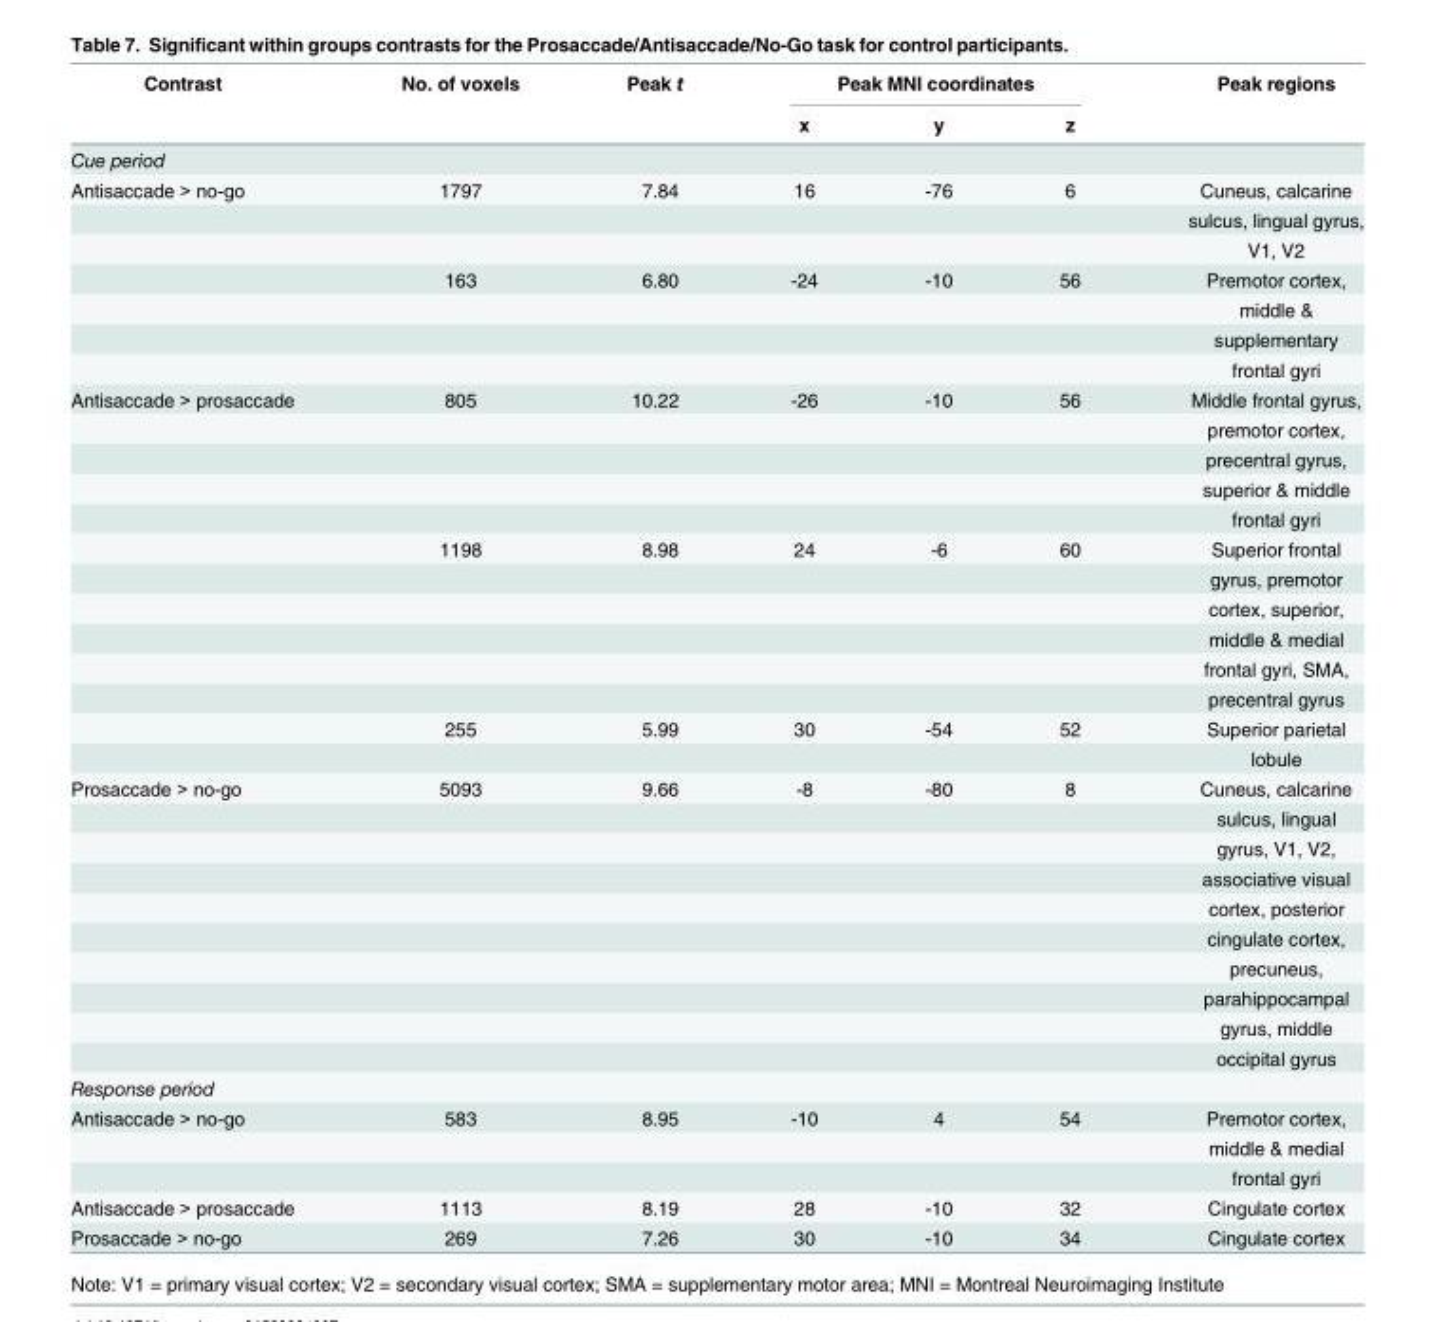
<table><thead><tr><td rowspan="2">Contrast</td><td rowspan="2">No. of voxels</td><td rowspan="2">Peak t</td><td colspan="3">Peak MNI coordinates</td><td rowspan="2">Peak regions</td></tr><tr><td>x</td><td>y</td><td>z</td></tr></thead><tbody><tr><td colspan="7">Cue period</td></tr><tr><td rowspan="7">Antisaccade &gt; no-go</td><td>1797</td><td>7.84</td><td>16</td><td>-76</td><td>6</td><td>Cuneus, calcarine</td></tr><tr><td></td><td></td><td></td><td></td><td></td><td>sulcus, lingual gyrus,</td></tr><tr><td></td><td></td><td></td><td></td><td></td><td>V1, V2</td></tr><tr><td>163</td><td>6.80</td><td>-24</td><td>-10</td><td>56</td><td>Premotor cortex,</td></tr><tr><td></td><td></td><td></td><td></td><td></td><td>middle &amp;</td></tr><tr><td></td><td></td><td></td><td></td><td></td><td>supplementary</td></tr><tr><td></td><td></td><td></td><td></td><td></td><td>frontal gyri</td></tr><tr><td rowspan="13">Antisaccade &gt; prosaccade</td><td>805</td><td>10.22</td><td>-26</td><td>-10</td><td>56</td><td>Middle frontal gyrus,</td></tr><tr><td></td><td></td><td></td><td></td><td></td><td>premotor cortex,</td></tr><tr><td></td><td></td><td></td><td></td><td></td><td>precentral gyrus,</td></tr><tr><td></td><td></td><td></td><td></td><td></td><td>superior &amp; middle</td></tr><tr><td></td><td></td><td></td><td></td><td></td><td>frontal gyri</td></tr><tr><td>1198</td><td>8.98</td><td>24</td><td>-6</td><td>60</td><td>Superior frontal</td></tr><tr><td></td><td></td><td></td><td></td><td></td><td>gyrus, premotor</td></tr><tr><td></td><td></td><td></td><td></td><td></td><td>cortex, superior,</td></tr><tr><td></td><td></td><td></td><td></td><td></td><td>middle &amp; medial</td></tr><tr><td></td><td></td><td></td><td></td><td></td><td>frontal gyri, SMA,</td></tr><tr><td></td><td></td><td></td><td></td><td></td><td>precentral gyrus</td></tr><tr><td>255</td><td>5.99</td><td>30</td><td>-54</td><td>52</td><td>Superior parietal</td></tr><tr><td></td><td></td><td></td><td></td><td></td><td>lobule</td></tr><tr><td rowspan="10">Prosaccade &gt; no-go</td><td>5093</td><td>9.66</td><td>-8</td><td>-80</td><td>8</td><td>Cuneus, calcarine</td></tr><tr><td></td><td></td><td></td><td></td><td></td><td>sulcus, lingual</td></tr><tr><td></td><td></td><td></td><td></td><td></td><td>gyrus, V1, V2,</td></tr><tr><td></td><td></td><td></td><td></td><td></td><td>associative visual</td></tr><tr><td></td><td></td><td></td><td></td><td></td><td>cortex, posterior</td></tr><tr><td></td><td></td><td></td><td></td><td></td><td>cingulate cortex,</td></tr><tr><td></td><td></td><td></td><td></td><td></td><td>precuneus,</td></tr><tr><td></td><td></td><td></td><td></td><td></td><td>parahippocampal</td></tr><tr><td></td><td></td><td></td><td></td><td></td><td>gyrus, middle</td></tr><tr><td></td><td></td><td></td><td></td><td></td><td>occipital gyrus</td></tr><tr><td colspan="7">Response period</td></tr><tr><td rowspan="3">Antisaccade &gt; no-go</td><td>583</td><td>8.95</td><td>-10</td><td>4</td><td>54</td><td>Premotor cortex,</td></tr><tr><td></td><td></td><td></td><td></td><td></td><td>middle &amp; medial</td></tr><tr><td></td><td></td><td></td><td></td><td></td><td>frontal gyri</td></tr><tr><td>Antisaccade &gt; prosaccade</td><td>1113</td><td>8.19</td><td>28</td><td>-10</td><td>32</td><td>Cingulate cortex</td></tr><tr><td>Prosaccade &gt; no-go</td><td>269</td><td>7.26</td><td>30</td><td>-10</td><td>34</td><td>Cingulate cortex</td></tr></tbody></table>